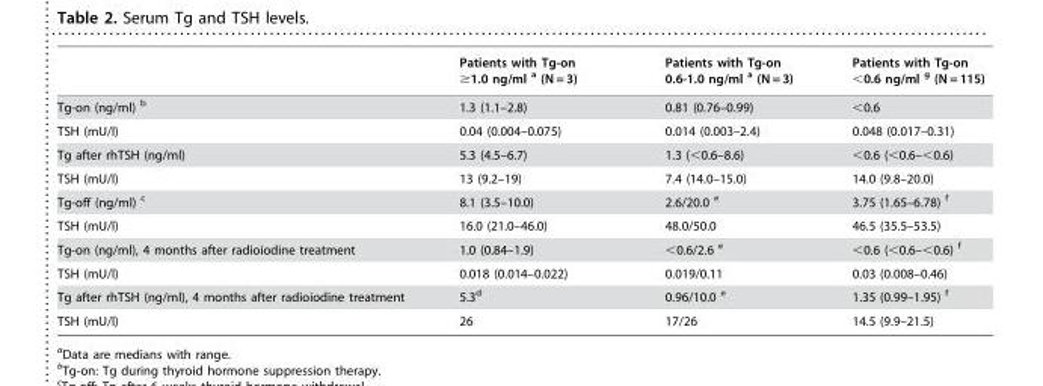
<table><thead><tr><td></td><td>Patients with Tg-on ≥1.0 ng/ml a (N = 3)</td><td>Patients with Tg-on 0.6-1.0 ng/ml a (N = 3)</td><td>Patients with Tg-on &lt;0.6 ng/ml g (N = 115)</td></tr></thead><tbody><tr><td>Tg-on (ng/ml) b</td><td>1.3 (1.1–2.8)</td><td>0.81 (0.76–0.99)</td><td>&lt;0.6</td></tr><tr><td>TSH (mU/l)</td><td>0.04 (0.004–0.075)</td><td>0.014 (0.003–2.4)</td><td>0.048 (0.017–0.31)</td></tr><tr><td>Tg after rhTSH (ng/ml)</td><td>5.3 (4.5–6.7)</td><td>1.3 (&lt;0.6–8.6)</td><td>&lt;0.6 (&lt;0.6–&lt;0.6)</td></tr><tr><td>TSH (mU/l)</td><td>13 (9.2–19)</td><td>7.4 (14.0–15.0)</td><td>14.0 (9.8–20.0)</td></tr><tr><td>Tg-off (ng/ml) c</td><td>8.1 (3.5–10.0)</td><td>2.6/20.0 e</td><td>3.75 (1.65–6.78) f</td></tr><tr><td>TSH (mU/l)</td><td>16.0 (21.0–46.0)</td><td>48.0/50.0</td><td>46.5 (35.5–53.5)</td></tr><tr><td>Tg-on (ng/ml), 4 months after radioiodine treatment</td><td>1.0 (0.84–1.9)</td><td>&lt;0.6/2.6 e</td><td>&lt;0.6 (&lt;0.6–&lt;0.6) f</td></tr><tr><td>TSH (mU/l)</td><td>0.018 (0.014–0.022)</td><td>0.019/0.11</td><td>0.03 (0.008–0.46)</td></tr><tr><td>Tg after rhTSH (ng/ml), 4 months after radioiodine treatment</td><td>5.3<sup>d</sup></td><td>0.96/10.0 e</td><td>1.35 (0.99–1.95) f</td></tr><tr><td>TSH (mU/l)</td><td>26</td><td>17/26</td><td>14.5 (9.9–21.5)</td></tr></tbody></table>